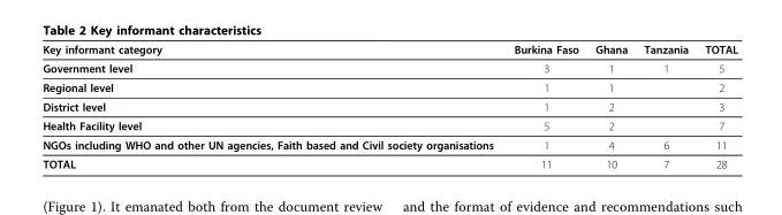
<table><thead><tr><td>Key informant category</td><td>Burkina Faso</td><td>Ghana</td><td>Tanzania</td><td>TOTAL</td></tr></thead><tbody><tr><td>Government level</td><td>3</td><td>1</td><td>1</td><td>5</td></tr><tr><td>Regional level</td><td>1</td><td>1</td><td></td><td>2</td></tr><tr><td>District level</td><td>1</td><td>2</td><td></td><td>3</td></tr><tr><td>Health Facility level</td><td>5</td><td>2</td><td></td><td>7</td></tr><tr><td>NGOs including WHO and other UN agencies, Faith based and Civil society organisations</td><td>1</td><td>4</td><td>6</td><td>11</td></tr><tr><td>TOTAL</td><td>11</td><td>10</td><td>7</td><td>28</td></tr></tbody></table>